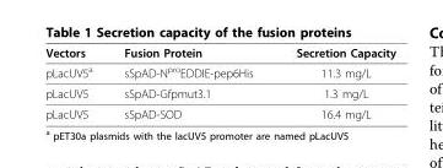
<table><thead><tr><td>Vectors</td><td>Fusion Protein</td><td>Secretion Capacity</td></tr></thead><tbody><tr><td>pLacUV5<sup>a</sup></td><td>sSpAD-N<sup>pro</sup>EDDIE-pep6His</td><td>11.3 mg/L</td></tr><tr><td>pLacUV5</td><td>sSpAD-Gfpmut3.1</td><td>1.3 mg/L</td></tr><tr><td>pLacUV5</td><td>sSpAD-SOD</td><td>16.4 mg/L</td></tr></tbody></table>